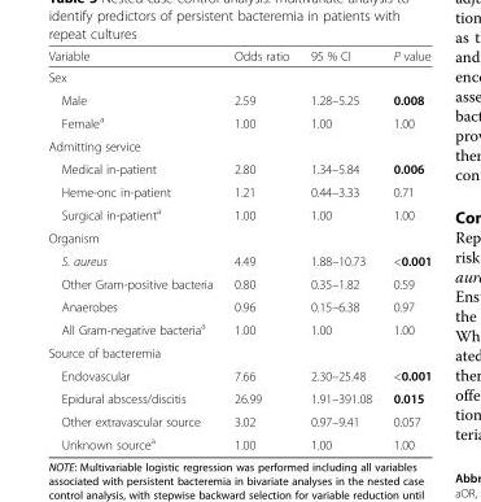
<table><thead><tr><td>Variable</td><td>Odds ratio</td><td>95 % CI</td><td>P value</td></tr></thead><tbody><tr><td colspan="4">Sex</td></tr><tr><td>Male</td><td>2.59</td><td>1.28–5.25</td><td>0.008</td></tr><tr><td>Female<sup>a</sup></td><td>1.00</td><td>1.00</td><td>1.00</td></tr><tr><td colspan="4">Admitting service</td></tr><tr><td>Medical in-patient</td><td>2.80</td><td>1.34–5.84</td><td>0.006</td></tr><tr><td>Heme-onc in-patient</td><td>1.21</td><td>0.44–3.33</td><td>0.71</td></tr><tr><td>Surgical in-patient<sup>a</sup></td><td>1.00</td><td>1.00</td><td>1.00</td></tr><tr><td colspan="4">Organism</td></tr><tr><td>S. aureus</td><td>4.49</td><td>1.88–10.73</td><td>&lt;0.001</td></tr><tr><td>Other Gram-positive bacteria</td><td>0.80</td><td>0.35–1.82</td><td>0.59</td></tr><tr><td>Anaerobes</td><td>0.96</td><td>0.15–6.38</td><td>0.97</td></tr><tr><td>All Gram-negative bacteria<sup>a</sup></td><td>1.00</td><td>1.00</td><td>1.00</td></tr><tr><td colspan="4">Source of bacteremia</td></tr><tr><td>Endovascular</td><td>7.66</td><td>2.30–25.48</td><td>&lt;0.001</td></tr><tr><td>Epidural abscess/discitis</td><td>26.99</td><td>1.91–391.08</td><td>0.015</td></tr><tr><td>Other extravascular source</td><td>3.02</td><td>0.97–9.41</td><td>0.057</td></tr><tr><td>Unknown source<sup>a</sup></td><td>1.00</td><td>1.00</td><td>1.00</td></tr></tbody></table>